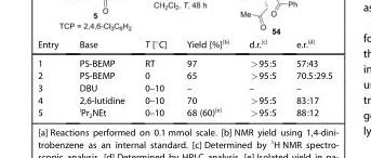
<table><thead><tr><td>Entry</td><td>Base</td><td>T [°C]</td><td>Yield [%]<sup>[b]</sup></td><td>d.r.<sup>[c]</sup></td><td>e.r.<sup>[d]</sup></td></tr></thead><tbody><tr><td>1</td><td>PS-BEMP</td><td>RT</td><td>97</td><td>&gt;95:5</td><td>57:43</td></tr><tr><td>2</td><td>PS-BEMP</td><td>0</td><td>65</td><td>&gt;95:5</td><td>70.5:29.5</td></tr><tr><td>3</td><td>DBU</td><td>0–10</td><td>–</td><td>–</td><td>–</td></tr><tr><td>4</td><td>2,6-lutidine</td><td>0–10</td><td>70</td><td>&gt;95:5</td><td>83:17</td></tr><tr><td>5</td><td><sup>i</sup>Pr<sub>2</sub>NEt</td><td>0–10</td><td>68 (60)<sup>[e]</sup></td><td>&gt;95:5</td><td>88:12</td></tr></tbody></table>